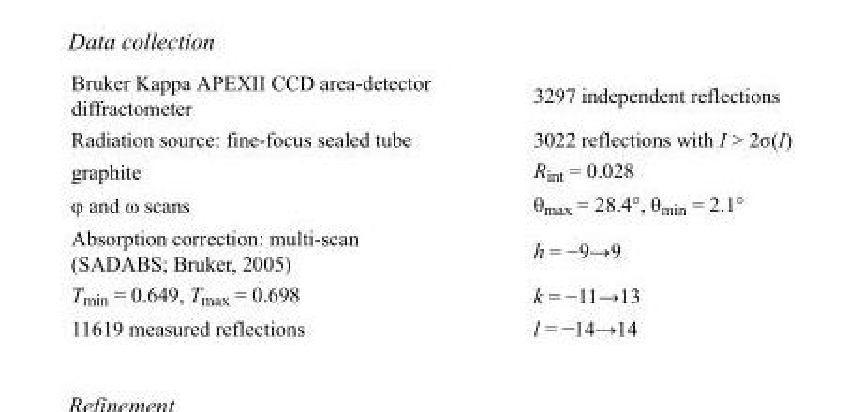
<table><tbody><tr><td>Bruker Kappa APEXII CCD area-detector diffractometer</td><td>3297 independent reflections</td></tr><tr><td>Radiation source: fine-focus sealed tube</td><td>3022 reflections with I &gt; 2σ(I)</td></tr><tr><td>graphite</td><td>R<sub>int</sub> = 0.028</td></tr><tr><td>φ and ω scans</td><td>θ<sub>max</sub> = 28.4°, θ<sub>min</sub> = 2.1°</td></tr><tr><td>Absorption correction: multi-scan (SADABS; Bruker, 2005)</td><td>h = −9→9</td></tr><tr><td>T<sub>min</sub> = 0.649, T<sub>max</sub> = 0.698</td><td>k = −11→13</td></tr><tr><td>11619 measured reflections</td><td>l = −14→14</td></tr></tbody></table>